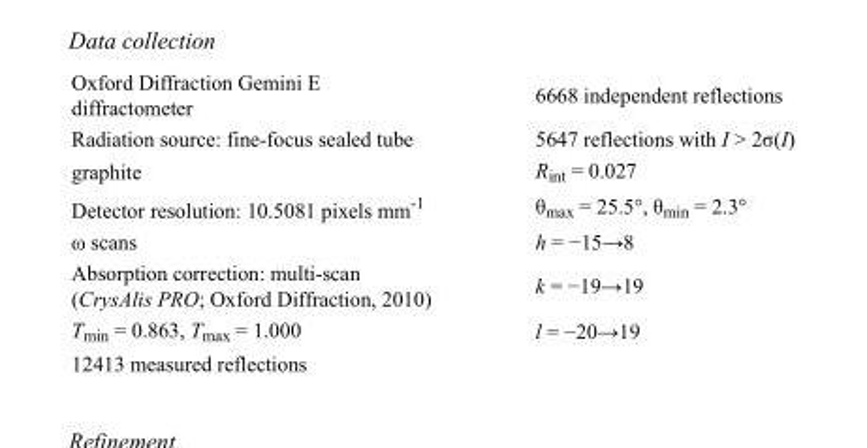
<table><tbody><tr><td>Oxford Diffraction Gemini E diffractometer</td><td>6668 independent reflections</td></tr><tr><td>Radiation source: fine-focus sealed tube</td><td>5647 reflections with I &gt; 2σ(I)</td></tr><tr><td>graphite</td><td>R<sub>int</sub> = 0.027</td></tr><tr><td>Detector resolution: 10.5081 pixels mm<sup>-1</sup></td><td>θ<sub>max</sub> = 25.5°, θ<sub>min</sub> = 2.3°</td></tr><tr><td>ω scans</td><td>h = −15→8</td></tr><tr><td>Absorption correction: multi-scan (CrysAlis PRO; Oxford Diffraction, 2010)</td><td>k = −19→19</td></tr><tr><td>T<sub>min</sub> = 0.863, T<sub>max</sub> = 1.000</td><td>l = −20→19</td></tr><tr><td>12413 measured reflections</td><td></td></tr></tbody></table>